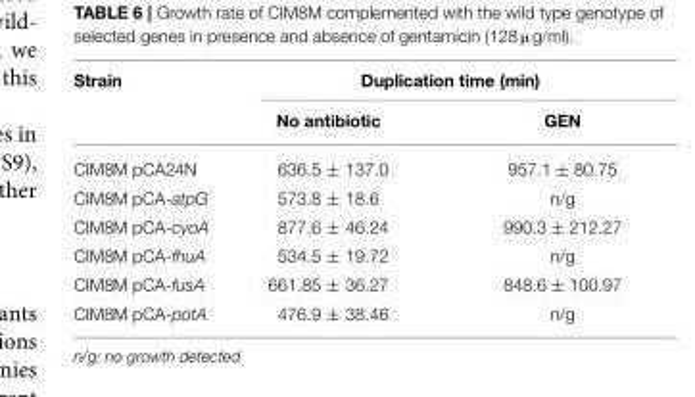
<table><thead><tr><td rowspan="2">Strain</td><td colspan="2">Duplication time (min)</td></tr><tr><td>No antibiotic</td><td>GEN</td></tr></thead><tbody><tr><td>CIM8M pCA24N</td><td>636.5 ± 137.0</td><td>957.1 ± 80.75</td></tr><tr><td>CIM8M pCA-atpG</td><td>573.8 ± 18.6</td><td>n/g</td></tr><tr><td>CIM8M pCA-cyoA</td><td>877.6 ± 46.24</td><td>990.3 ± 212.27</td></tr><tr><td>CIM8M pCA-fhuA</td><td>534.5 ± 19.72</td><td>n/g</td></tr><tr><td>CIM8M pCA-fusA</td><td>661.85 ± 36.27</td><td>848.6 ± 100.97</td></tr><tr><td>CIM8M pCA-potA</td><td>476.9 ± 38.46</td><td>n/g</td></tr></tbody></table>